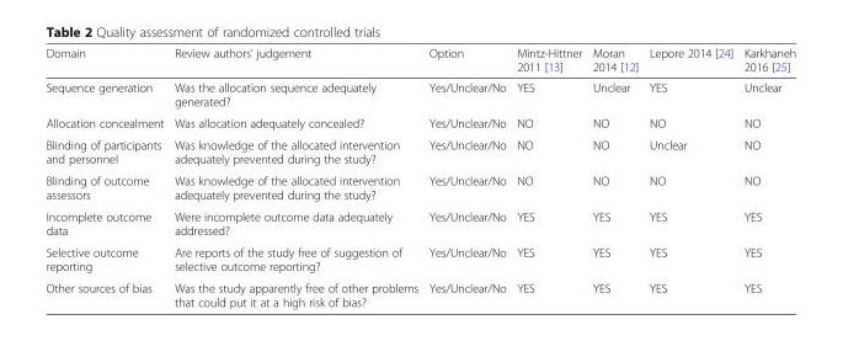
<table><thead><tr><td>Domain</td><td>Review authors’ judgement</td><td>Option</td><td>Mintz-Hittner 2011 [13]</td><td>Moran 2014 [12]</td><td>Lepore 2014 [24]</td><td>Karkhaneh 2016 [25]</td></tr></thead><tbody><tr><td>Sequence generation</td><td>Was the allocation sequence adequately generated?</td><td>Yes/Unclear/No</td><td>YES</td><td>Unclear</td><td>YES</td><td>Unclear</td></tr><tr><td>Allocation concealment</td><td>Was allocation adequately concealed?</td><td>Yes/Unclear/No</td><td>NO</td><td>NO</td><td>NO</td><td>NO</td></tr><tr><td>Blinding of participants and personnel</td><td>Was knowledge of the allocated intervention adequately prevented during the study?</td><td>Yes/Unclear/No</td><td>NO</td><td>NO</td><td>Unclear</td><td>NO</td></tr><tr><td>Blinding of outcome assessors</td><td>Was knowledge of the allocated intervention adequately prevented during the study?</td><td>Yes/Unclear/No</td><td>NO</td><td>NO</td><td>NO</td><td>NO</td></tr><tr><td>Incomplete outcome data</td><td>Were incomplete outcome data adequately addressed?</td><td>Yes/Unclear/No</td><td>YES</td><td>YES</td><td>YES</td><td>YES</td></tr><tr><td>Selective outcome reporting</td><td>Are reports of the study free of suggestion of selective outcome reporting?</td><td>Yes/Unclear/No</td><td>YES</td><td>YES</td><td>YES</td><td>YES</td></tr><tr><td>Other sources of bias</td><td>Was the study apparently free of other problems that could put it at a high risk of bias?</td><td>Yes/Unclear/No</td><td>YES</td><td>YES</td><td>YES</td><td>YES</td></tr></tbody></table>